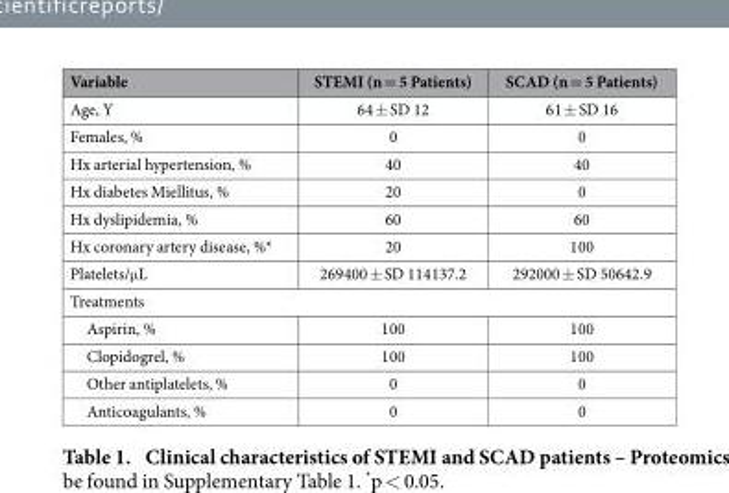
<table><thead><tr><td>Variable</td><td>STEMI (n = 5 Patients)</td><td>SCAD (n = 5 Patients)</td></tr></thead><tbody><tr><td>Age, Y</td><td>64 ± SD 12</td><td>61 ± SD 16</td></tr><tr><td>Females, %</td><td>0</td><td>0</td></tr><tr><td>Hx arterial hypertension, %</td><td>40</td><td>40</td></tr><tr><td>Hx diabetes Miellitus, %</td><td>20</td><td>0</td></tr><tr><td>Hx dyslipidemia, %</td><td>60</td><td>60</td></tr><tr><td>Hx coronary artery disease, %*</td><td>20</td><td>100</td></tr><tr><td>Platelets/μ L</td><td>269400 ± SD 114137.2</td><td>292000 ± SD 50642.9</td></tr><tr><td colspan="3">Treatments</td></tr><tr><td>Aspirin, %</td><td>100</td><td>100</td></tr><tr><td>Clopidogrel, %</td><td>100</td><td>100</td></tr><tr><td>Other antiplatelets, %</td><td>0</td><td>0</td></tr><tr><td>Anticoagulants, %</td><td>0</td><td>0</td></tr></tbody></table>